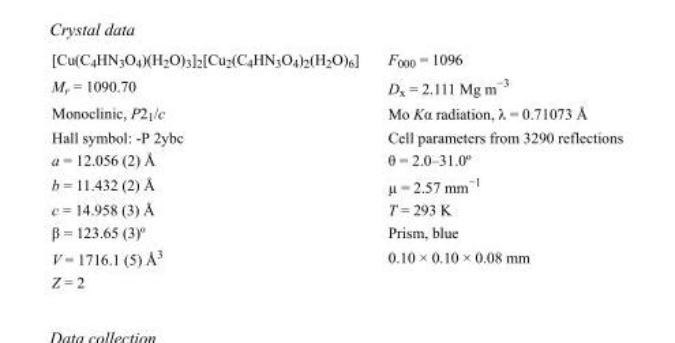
<table><tbody><tr><td>[Cu(C<sub>4</sub>HN<sub>3</sub>O<sub>4</sub>)(H<sub>2</sub>O)<sub>3</sub>]<sub>2</sub>[Cu<sub>2</sub>(C<sub>4</sub>HN<sub>3</sub>O<sub>4</sub>)<sub>2</sub>(H<sub>2</sub>O)<sub>6</sub>]</td><td>F000 = 1096</td></tr><tr><td>M<sub>r</sub> = 1090.70</td><td>D<sub>x</sub> = 2.111 Mg m<sup>−3</sup></td></tr><tr><td>Monoclinic, P2<sub>1</sub>/c</td><td>Mo Kα radiation, λ = 0.71073 Å</td></tr><tr><td>Hall symbol: -P 2ybc</td><td>Cell parameters from 3290 reflections</td></tr><tr><td>a = 12.056 (2) Å</td><td>θ = 2.0–31.0º</td></tr><tr><td>b = 11.432 (2) Å</td><td>µ = 2.57 mm<sup>−1</sup></td></tr><tr><td>c = 14.958 (3) Å</td><td>T = 293 K</td></tr><tr><td>β = 123.65 (3)º</td><td>Prism, blue</td></tr><tr><td>V = 1716.1 (5) Å<sup>3</sup></td><td>0.10 × 0.10 × 0.08 mm</td></tr><tr><td>Z = 2</td><td></td></tr></tbody></table>